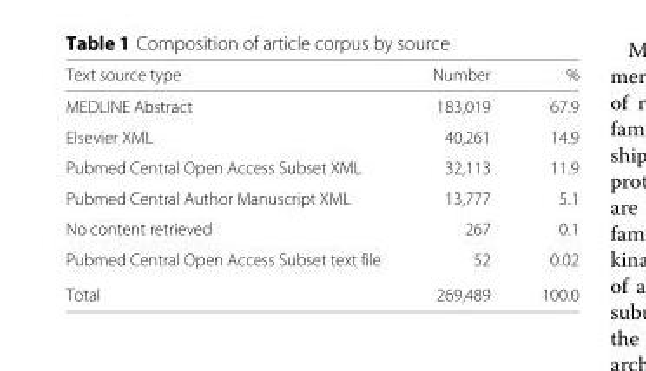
<table><thead><tr><td>Text source type</td><td>Number</td><td>%</td></tr></thead><tbody><tr><td>MEDLINE Abstract</td><td>183,019</td><td>67.9</td></tr><tr><td>Elsevier XML</td><td>40,261</td><td>14.9</td></tr><tr><td>Pubmed Central Open Access Subset XML</td><td>32,113</td><td>11.9</td></tr><tr><td>Pubmed Central Author Manuscript XML</td><td>13,777</td><td>5.1</td></tr><tr><td>No content retrieved</td><td>267</td><td>0.1</td></tr><tr><td>Pubmed Central Open Access Subset text file</td><td>52</td><td>0.02</td></tr><tr><td>Total</td><td>269,489</td><td>100.0</td></tr></tbody></table>